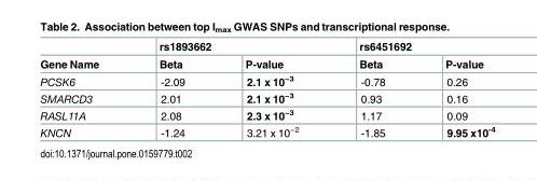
<table><thead><tr><td rowspan="2">Gene Name</td><td colspan="2">rs1893662</td><td colspan="2">rs6451692</td></tr><tr><td>Beta</td><td>P-value</td><td>Beta</td><td>P-value</td></tr></thead><tbody><tr><td>PCSK6</td><td>-2.09</td><td>2.1 x 10<sup>−3</sup></td><td>-0.78</td><td>0.26</td></tr><tr><td>SMARCD3</td><td>2.01</td><td>2.1 x 10<sup>−3</sup></td><td>0.93</td><td>0.16</td></tr><tr><td>RASL11A</td><td>2.08</td><td>2.3 x 10<sup>−3</sup></td><td>1.17</td><td>0.09</td></tr><tr><td>KNCN</td><td>-1.24</td><td>3.21 x 10<sup>−2</sup></td><td>-1.85</td><td>9.95 x10<sup>-4</sup></td></tr></tbody></table>